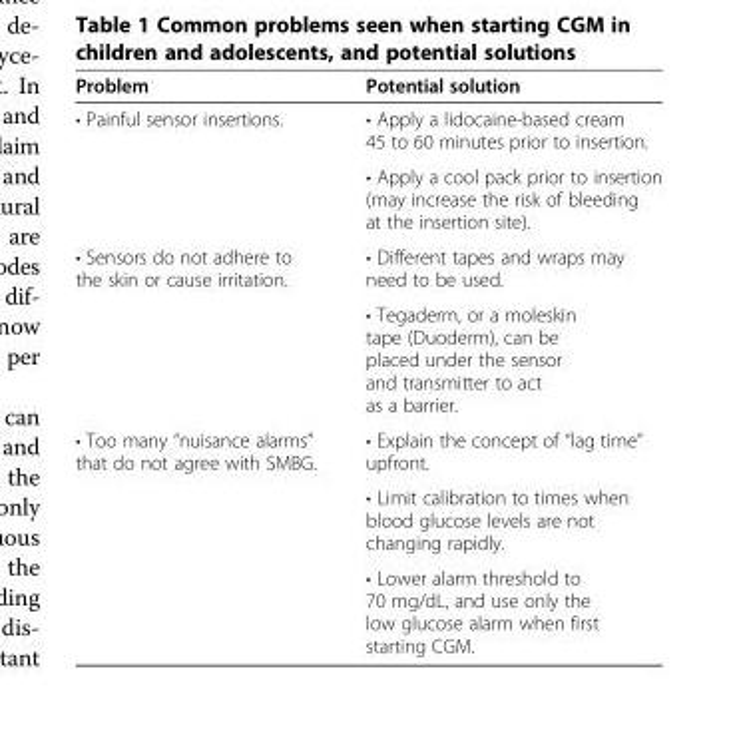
<table><thead><tr><td>Problem</td><td>Potential solution</td></tr></thead><tbody><tr><td rowspan="2">• Painful sensor insertions.</td><td>• Apply a lidocaine-based cream 45 to 60 minutes prior to insertion.</td></tr><tr><td>• Apply a cool pack prior to insertion (may increase the risk of bleeding at the insertion site).</td></tr><tr><td rowspan="2">• Sensors do not adhere to the skin or cause irritation.</td><td>• Different tapes and wraps may need to be used.</td></tr><tr><td>• Tegaderm, or a moleskin tape (Duoderm), can be placed under the sensor and transmitter to act as a barrier.</td></tr><tr><td rowspan="3">• Too many “nuisance alarms” that do not agree with SMBG.</td><td>• Explain the concept of “lag time” upfront.</td></tr><tr><td>• Limit calibration to times when blood glucose levels are not changing rapidly.</td></tr><tr><td>• Lower alarm threshold to 70 mg/dL, and use only the low glucose alarm when first starting CGM.</td></tr></tbody></table>